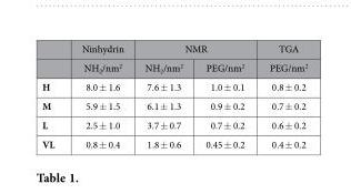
<table><thead><tr><td rowspan="2"></td><td rowspan="2">Ninhydrin NH<sub>2</sub>/nm<sup>2</sup></td><td colspan="2">NMR</td><td rowspan="2">TGA PEG/nm<sup>2</sup></td></tr><tr><td>NH<sub>2</sub>/nm<sup>2</sup></td><td>PEG/nm<sup>2</sup></td></tr></thead><tbody><tr><td>H</td><td>8.0 ± 1.6</td><td>7.6 ± 1.3</td><td>1.0 ± 0.1</td><td>0.8 ± 0.2</td></tr><tr><td>M</td><td>5.9 ± 1.5</td><td>6.1 ± 1.3</td><td>0.9 ± 0.2</td><td>0.7 ± 0.2</td></tr><tr><td>L</td><td>2.5 ± 1.0</td><td>3.7 ± 0.7</td><td>0.7 ± 0.2</td><td>0.6 ± 0.2</td></tr><tr><td>VL</td><td>0.8 ± 0.4</td><td>1.8 ± 0.6</td><td>0.45 ± 0.2</td><td>0.4 ± 0.2</td></tr></tbody></table>